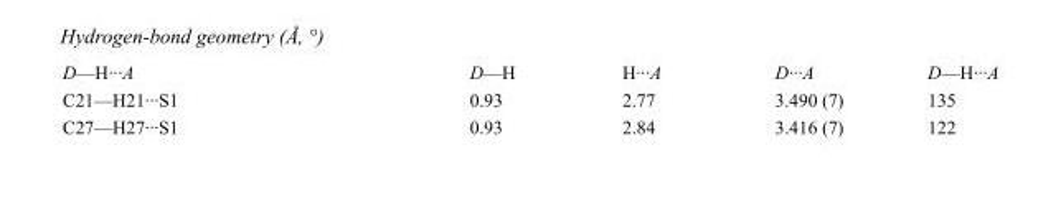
<table><tbody><tr><td>D—H···A</td><td>D—H</td><td>H···A</td><td>D···A</td><td>D—H···A</td></tr><tr><td>C21—H21···S1</td><td>0.93</td><td>2.77</td><td>3.490 (7)</td><td>135</td></tr><tr><td>C27—H27···S1</td><td>0.93</td><td>2.84</td><td>3.416 (7)</td><td>122</td></tr></tbody></table>